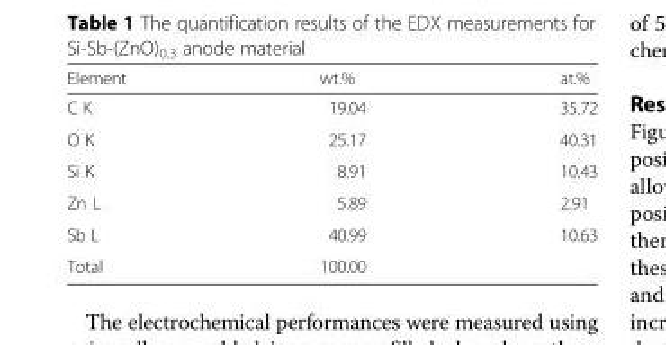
<table><thead><tr><td>Element</td><td>wt.%</td><td>at.%</td></tr></thead><tbody><tr><td>C K</td><td>19.04</td><td>35.72</td></tr><tr><td>O K</td><td>25.17</td><td>40.31</td></tr><tr><td>Si K</td><td>8.91</td><td>10.43</td></tr><tr><td>Zn L</td><td>5.89</td><td>2.91</td></tr><tr><td>Sb L</td><td>40.99</td><td>10.63</td></tr><tr><td>Total</td><td>100.00</td><td></td></tr></tbody></table>